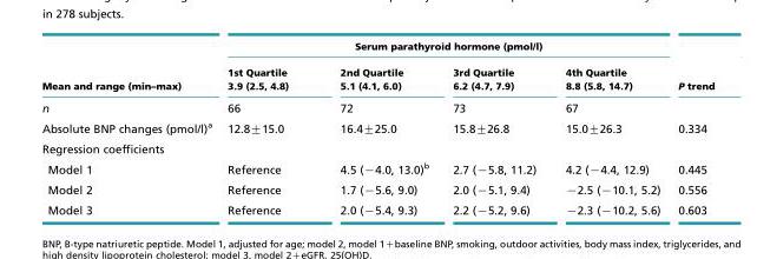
<table><thead><tr><td rowspan="2">Mean and range (min–max)</td><td colspan="4">Serum parathyroid hormone (pmol/l)</td><td rowspan="2">P trend</td></tr><tr><td>1st Quartile 3.9 (2.5, 4.8)</td><td>2nd Quartile 5.1 (4.1, 6.0)</td><td>3rd Quartile 6.2 (4.7, 7.9)</td><td>4th Quartile 8.8 (5.8, 14.7)</td></tr></thead><tbody><tr><td>n</td><td>66</td><td>72</td><td>73</td><td>67</td><td></td></tr><tr><td>Absolute BNP changes (pmol/l)<sup>a</sup></td><td>12.8±15.0</td><td>16.4±25.0</td><td>15.8±26.8</td><td>15.0±26.3</td><td>0.334</td></tr><tr><td colspan="6">Regression coefficients</td></tr><tr><td>Model 1</td><td>Reference</td><td>4.5 (−4.0, 13.0)<sup>b</sup></td><td>2.7 (−5.8, 11.2)</td><td>4.2 (−4.4, 12.9)</td><td>0.445</td></tr><tr><td>Model 2</td><td>Reference</td><td>1.7 (−5.6, 9.0)</td><td>2.0 (−5.1, 9.4)</td><td>−2.5 (−10.1, 5.2)</td><td>0.556</td></tr><tr><td>Model 3</td><td>Reference</td><td>2.0 (−5.4, 9.3)</td><td>2.2 (−5.2, 9.6)</td><td>−2.3 (−10.2, 5.6)</td><td>0.603</td></tr></tbody></table>